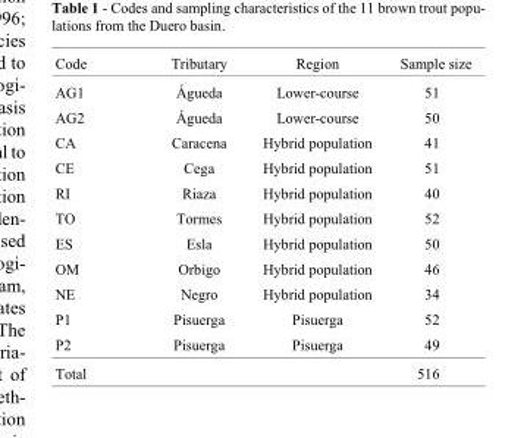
<table><thead><tr><td>Code</td><td>Tributary</td><td>Region</td><td>Sample size</td></tr></thead><tbody><tr><td>AG1</td><td>Águeda</td><td>Lower-course</td><td>51</td></tr><tr><td>AG2</td><td>Águeda</td><td>Lower-course</td><td>50</td></tr><tr><td>CA</td><td>Caracena</td><td>Hybrid population</td><td>41</td></tr><tr><td>CE</td><td>Cega</td><td>Hybrid population</td><td>51</td></tr><tr><td>RI</td><td>Riaza</td><td>Hybrid population</td><td>40</td></tr><tr><td>TO</td><td>Tormes</td><td>Hybrid population</td><td>52</td></tr><tr><td>ES</td><td>Esla</td><td>Hybrid population</td><td>50</td></tr><tr><td>OM</td><td>Orbigo</td><td>Hybrid population</td><td>46</td></tr><tr><td>NE</td><td>Negro</td><td>Hybrid population</td><td>34</td></tr><tr><td>P1</td><td>Pisuerga</td><td>Pisuerga</td><td>52</td></tr><tr><td>P2</td><td>Pisuerga</td><td>Pisuerga</td><td>49</td></tr><tr><td>Total</td><td></td><td></td><td>516</td></tr></tbody></table>